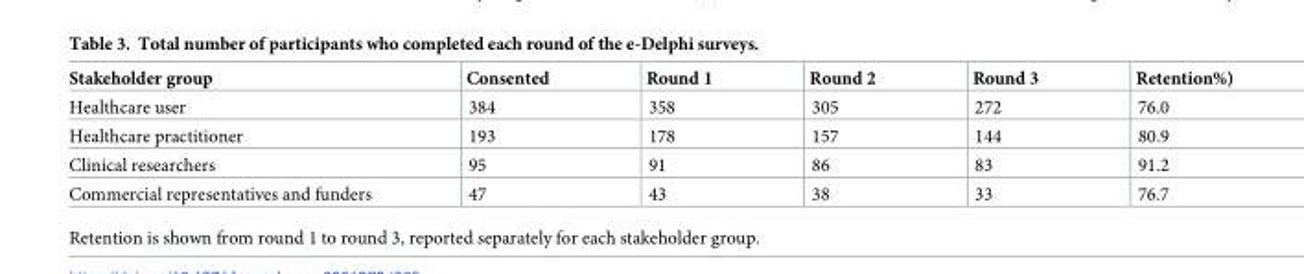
<table><thead><tr><td>Stakeholder group</td><td>Consented</td><td>Round 1</td><td>Round 2</td><td>Round 3</td><td>Retention%)</td></tr></thead><tbody><tr><td>Healthcare user</td><td>384</td><td>358</td><td>305</td><td>272</td><td>76.0</td></tr><tr><td>Healthcare practitioner</td><td>193</td><td>178</td><td>157</td><td>144</td><td>80.9</td></tr><tr><td>Clinical researchers</td><td>95</td><td>91</td><td>86</td><td>83</td><td>91.2</td></tr><tr><td>Commercial representatives and funders</td><td>47</td><td>43</td><td>38</td><td>33</td><td>76.7</td></tr></tbody></table>